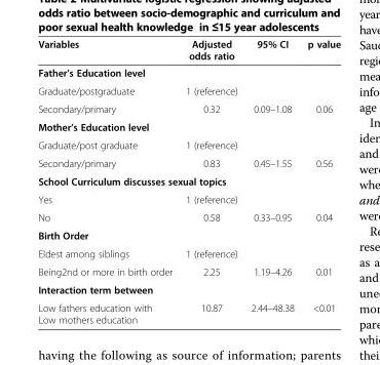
<table><thead><tr><td>Variables</td><td>Adjusted odds ratio</td><td>95% CI</td><td>p value</td></tr></thead><tbody><tr><td colspan="4">Father’s Education level</td></tr><tr><td>Graduate/postgraduate</td><td>1 (reference)</td><td></td><td></td></tr><tr><td>Secondary/primary</td><td>0.32</td><td>0.09–1.08</td><td>0.06</td></tr><tr><td colspan="4">Mother’s Education level</td></tr><tr><td>Graduate/post graduate</td><td>1 (reference)</td><td></td><td></td></tr><tr><td>Secondary/primary</td><td>0.83</td><td>0.45–1.55</td><td>0.56</td></tr><tr><td colspan="4">School Curriculum discusses sexual topics</td></tr><tr><td>Yes</td><td>1 (reference)</td><td></td><td></td></tr><tr><td>No</td><td>0.58</td><td>0.33–0.95</td><td>0.04</td></tr><tr><td colspan="4">Birth Order</td></tr><tr><td>Eldest among siblings</td><td>1 (reference)</td><td></td><td></td></tr><tr><td>Being2nd or more in birth order</td><td>2.25</td><td>1.19–4.26</td><td>0.01</td></tr><tr><td colspan="4">Interaction term between</td></tr><tr><td>Low fathers education with Low mothers education</td><td>10.87</td><td>2.44–48.38</td><td>&lt;0.01</td></tr></tbody></table>